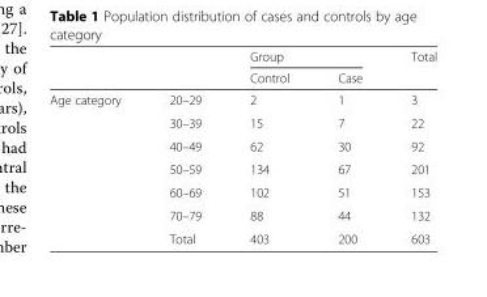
<table><thead><tr><td rowspan="2"></td><td rowspan="2"></td><td colspan="2">Group</td><td rowspan="2">Total</td></tr><tr><td>Control</td><td>Case</td></tr></thead><tbody><tr><td rowspan="7">Age category</td><td>20–29</td><td>2</td><td>1</td><td>3</td></tr><tr><td>30–39</td><td>15</td><td>7</td><td>22</td></tr><tr><td>40–49</td><td>62</td><td>30</td><td>92</td></tr><tr><td>50–59</td><td>134</td><td>67</td><td>201</td></tr><tr><td>60–69</td><td>102</td><td>51</td><td>153</td></tr><tr><td>70–79</td><td>88</td><td>44</td><td>132</td></tr><tr><td>Total</td><td>403</td><td>200</td><td>603</td></tr></tbody></table>